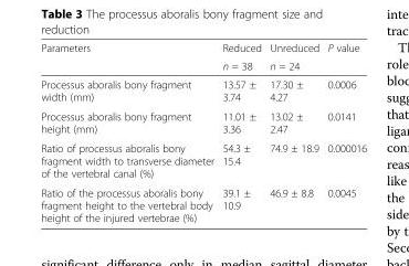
<table><thead><tr><td rowspan="2">Parameters</td><td rowspan="2">Reduced n = 38</td><td rowspan="2">Unreduced n = 24</td><td rowspan="2">P value</td></tr><tr></tr></thead><tbody><tr><td>Processus aboralis bony fragment width (mm)</td><td>13.57 ± 3.74</td><td>17.30 ± 4.27</td><td>0.0006</td></tr><tr><td>Processus aboralis bony fragment height (mm)</td><td>11.01 ± 3.36</td><td>13.02 ± 2.47</td><td>0.0141</td></tr><tr><td>Ratio of processus aboralis bony fragment width to transverse diameter of the vertebral canal (%)</td><td>54.3 ± 15.4</td><td>74.9 ± 18.9</td><td>0.000016</td></tr><tr><td>Ratio of the processus aboralis bony fragment height to the vertebral body height of the injured vertebrae (%)</td><td>39.1 ± 10.9</td><td>46.9 ± 8.8</td><td>0.0045</td></tr></tbody></table>